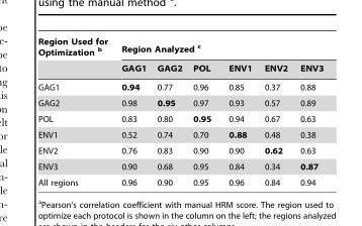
<table><thead><tr><td rowspan="2">Region Used for Optimization b</td><td colspan="6">Region Analyzed c</td></tr><tr><td>GAG1</td><td>GAG2</td><td>POL</td><td>ENV1</td><td>ENV2</td><td>ENV3</td></tr></thead><tbody><tr><td>GAG1</td><td>0.94</td><td>0.77</td><td>0.96</td><td>0.85</td><td>0.37</td><td>0.88</td></tr><tr><td>GAG2</td><td>0.98</td><td>0.95</td><td>0.97</td><td>0.93</td><td>0.57</td><td>0.89</td></tr><tr><td>POL</td><td>0.83</td><td>0.80</td><td>0.95</td><td>0.94</td><td>0.67</td><td>0.63</td></tr><tr><td>ENV1</td><td>0.52</td><td>0.74</td><td>0.70</td><td>0.88</td><td>0.48</td><td>0.38</td></tr><tr><td>ENV2</td><td>0.76</td><td>0.83</td><td>0.90</td><td>0.90</td><td>0.62</td><td>0.63</td></tr><tr><td>ENV3</td><td>0.90</td><td>0.68</td><td>0.95</td><td>0.84</td><td>0.34</td><td>0.87</td></tr><tr><td>All regions</td><td>0.96</td><td>0.90</td><td>0.95</td><td>0.96</td><td>0.84</td><td>0.94</td></tr></tbody></table>